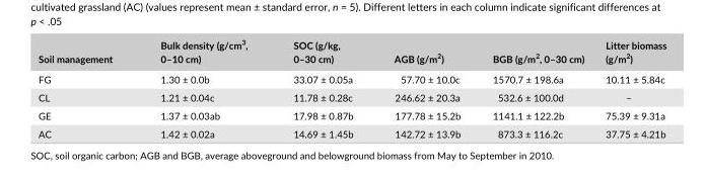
<table><thead><tr><td>Soil management</td><td>Bulk density (g/cm<sup>3</sup>, 0–10 cm)</td><td>SOC (g/kg, 0–30 cm)</td><td>AGB (g/m<sup>2</sup>)</td><td>BGB (g/m<sup>2</sup>, 0–30 cm)</td><td>Litter biomass (g/m<sup>2</sup>)</td></tr></thead><tbody><tr><td>FG</td><td>1.30 ± 0.0b</td><td>33.07 ± 0.05a</td><td>57.70 ± 10.0c</td><td>1570.7 ± 198.6a</td><td>10.11 ± 5.84c</td></tr><tr><td>CL</td><td>1.21 ± 0.04c</td><td>11.78 ± 0.28c</td><td>246.62 ± 20.3a</td><td>532.6 ± 100.0d</td><td>–</td></tr><tr><td>GE</td><td>1.37 ± 0.03ab</td><td>17.98 ± 0.87b</td><td>177.78 ± 15.2b</td><td>1141.1 ± 122.2b</td><td>75.39 ± 9.31a</td></tr><tr><td>AC</td><td>1.42 ± 0.02a</td><td>14.69 ± 1.45b</td><td>142.72 ± 13.9b</td><td>873.3 ± 116.2c</td><td>37.75 ± 4.21b</td></tr></tbody></table>